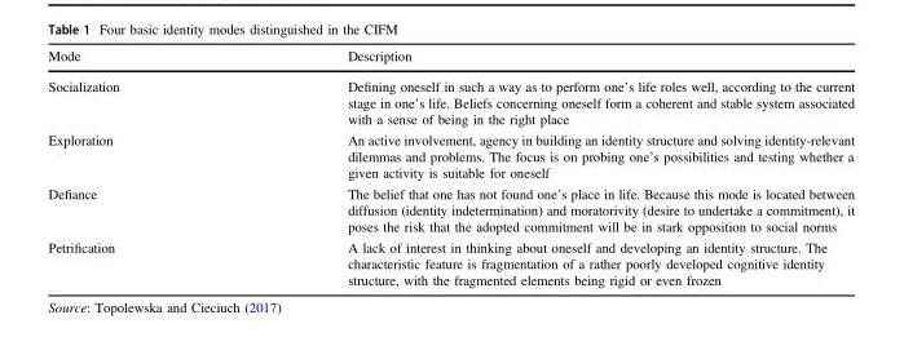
<table><thead><tr><td>Mode</td><td>Description</td></tr></thead><tbody><tr><td>Socialization</td><td>Defining oneself in such a way as to perform one’s life roles well, according to the current stage in one’s life. Beliefs concerning oneself form a coherent and stable system associated with a sense of being in the right place</td></tr><tr><td>Exploration</td><td>An active involvement, agency in building an identity structure and solving identity-relevant dilemmas and problems. The focus is on probing one’s possibilities and testing whether a given activity is suitable for oneself</td></tr><tr><td>Defiance</td><td>The belief that one has not found one’s place in life. Because this mode is located between diffusion (identity indetermination) and moratorivity (desire to undertake a commitment), it poses the risk that the adopted commitment will be in stark opposition to social norms</td></tr><tr><td>Petrification</td><td>A lack of interest in thinking about oneself and developing an identity structure. The characteristic feature is fragmentation of a rather poorly developed cognitive identity structure, with the fragmented elements being rigid or even frozen</td></tr></tbody></table>